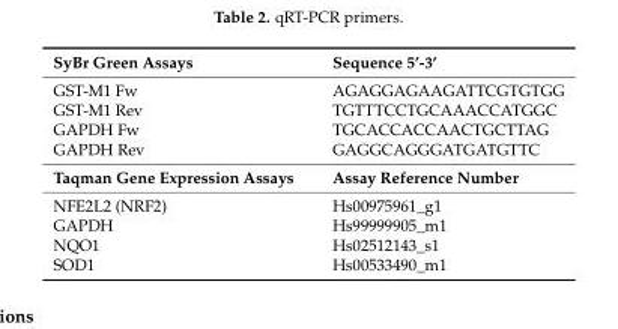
<table><tbody><tr><td>SyBr Green Assays</td><td>Sequence 5’-3’</td></tr><tr><td>GST-M1 Fw</td><td>AGAGGAGAAGATTCGTGTGG</td></tr><tr><td>GST-M1 Rev</td><td>TGTTTCCTGCAAACCATGGC</td></tr><tr><td>GAPDH Fw</td><td>TGCACCACCAACTGCTTAG</td></tr><tr><td>GAPDH Rev</td><td>GAGGCAGGGATGATGTTC</td></tr><tr><td>Taqman Gene Expression Assays</td><td>Assay Reference Number</td></tr><tr><td>NFE2L2 (NRF2)</td><td>Hs00975961_g1</td></tr><tr><td>GAPDH</td><td>Hs99999905_m1</td></tr><tr><td>NQO1</td><td>Hs02512143_s1</td></tr><tr><td>SOD1</td><td>Hs00533490_m1</td></tr></tbody></table>